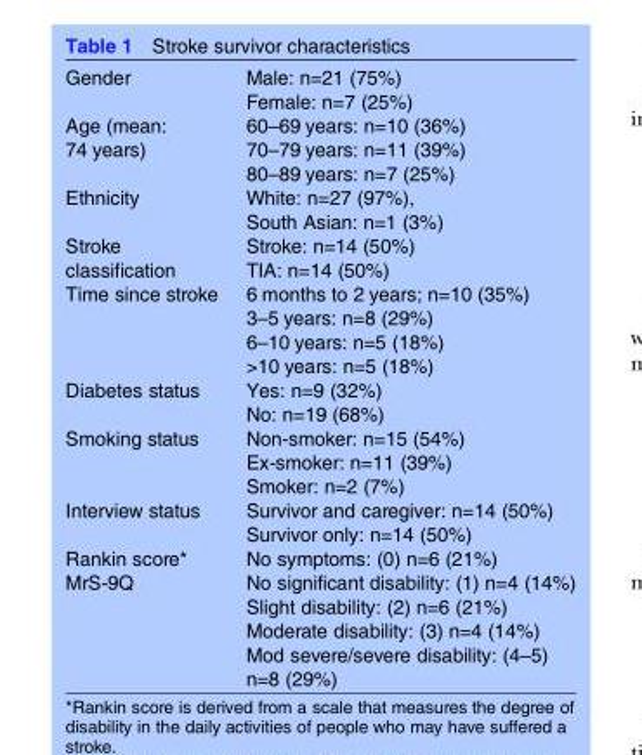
<table><tbody><tr><td>Gender</td><td>Male: n=21 (75%) Female: n=7 (25%)</td></tr><tr><td>Age (mean: 74 years)</td><td>60–69 years: n=10 (36%) 70–79 years: n=11 (39%) 80–89 years: n=7 (25%)</td></tr><tr><td>Ethnicity</td><td>White: n=27 (97%), South Asian: n=1 (3%)</td></tr><tr><td>Stroke classification</td><td>Stroke: n=14 (50%) TIA: n=14 (50%)</td></tr><tr><td>Time since stroke</td><td>6 months to 2 years; n=10 (35%) 3–5 years: n=8 (29%) 6–10 years: n=5 (18%) &gt;10 years: n=5 (18%)</td></tr><tr><td>Diabetes status</td><td>Yes: n=9 (32%) No: n=19 (68%)</td></tr><tr><td>Smoking status</td><td>Non-smoker: n=15 (54%) Ex-smoker: n=11 (39%) Smoker: n=2 (7%)</td></tr><tr><td>Interview status</td><td>Survivor and caregiver: n=14 (50%) Survivor only: n=14 (50%)</td></tr><tr><td>Rankin score* MrS-9Q</td><td>No symptoms: (0) n=6 (21%) No significant disability: (1) n=4 (14%) Slight disability: (2) n=6 (21%) Moderate disability: (3) n=4 (14%) Mod severe/severe disability: (4–5) n=8 (29%)</td></tr></tbody></table>